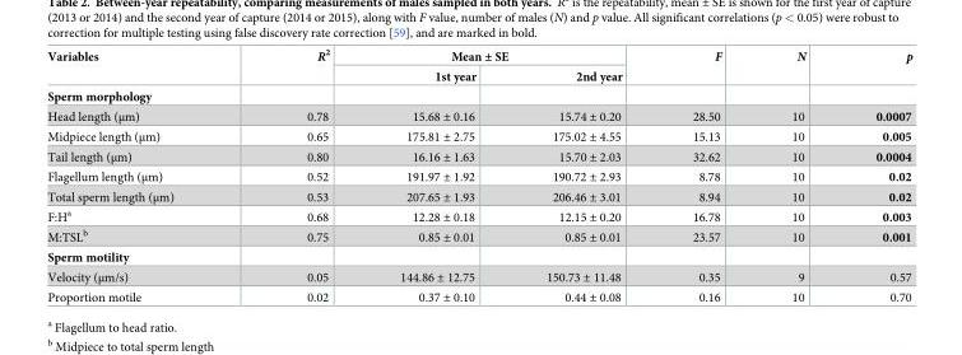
<table><thead><tr><td rowspan="2">Variables</td><td rowspan="2">R<sup>2</sup></td><td colspan="2">Mean ± SE</td><td rowspan="2">F</td><td rowspan="2">N</td><td rowspan="2">p</td></tr><tr><td>1st year</td><td>2nd year</td></tr></thead><tbody><tr><td colspan="7">Sperm morphology</td></tr><tr><td>Head length (μm)</td><td>0.78</td><td>15.68 ± 0.16</td><td>15.74 ± 0.20</td><td>28.50</td><td>10</td><td>0.0007</td></tr><tr><td>Midpiece length (μm)</td><td>0.65</td><td>175.81 ± 2.75</td><td>175.02 ± 4.55</td><td>15.13</td><td>10</td><td>0.005</td></tr><tr><td>Tail length (μm)</td><td>0.80</td><td>16.16 ± 1.63</td><td>15.70 ± 2.03</td><td>32.62</td><td>10</td><td>0.0004</td></tr><tr><td>Flagellum length (μm)</td><td>0.52</td><td>191.97 ± 1.92</td><td>190.72 ± 2.93</td><td>8.78</td><td>10</td><td>0.02</td></tr><tr><td>Total sperm length (μm)</td><td>0.53</td><td>207.65 ± 1.93</td><td>206.46 ± 3.01</td><td>8.94</td><td>10</td><td>0.02</td></tr><tr><td>F:H<sup>a</sup></td><td>0.68</td><td>12.28 ± 0.18</td><td>12.15 ± 0.20</td><td>16.78</td><td>10</td><td>0.003</td></tr><tr><td>M:TSL<sup>b</sup></td><td>0.75</td><td>0.85 ± 0.01</td><td>0.85 ± 0.01</td><td>23.57</td><td>10</td><td>0.001</td></tr><tr><td colspan="7">Sperm motility</td></tr><tr><td>Velocity (μm/s)</td><td>0.05</td><td>144.86 ± 12.75</td><td>150.73 ± 11.48</td><td>0.35</td><td>9</td><td>0.57</td></tr><tr><td>Proportion motile</td><td>0.02</td><td>0.37 ± 0.10</td><td>0.44 ± 0.08</td><td>0.16</td><td>10</td><td>0.70</td></tr></tbody></table>